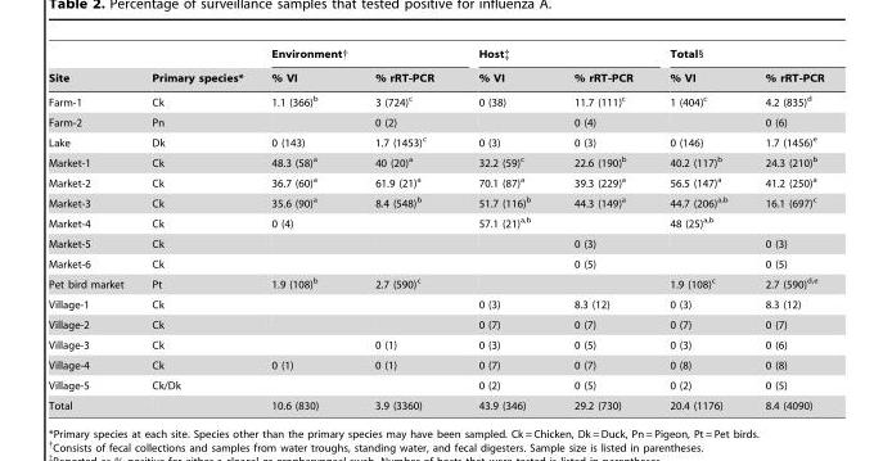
<table><thead><tr><td rowspan="2">Site</td><td rowspan="2">Primary species*</td><td colspan="2">Environment†</td><td colspan="2">Host‡</td><td colspan="2">Total§</td></tr><tr><td>% VI</td><td>% rRT-PCR</td><td>% VI</td><td>% rRT-PCR</td><td>% VI</td><td>% rRT-PCR</td></tr></thead><tbody><tr><td>Farm-1</td><td>Ck</td><td>1.1 (366)<sup>b</sup></td><td>3 (724)<sup>c</sup></td><td>0 (38)</td><td>11.7 (111)<sup>c</sup></td><td>1 (404)<sup>c</sup></td><td>4.2 (835)<sup>d</sup></td></tr><tr><td>Farm-2</td><td>Pn</td><td></td><td>0 (2)</td><td></td><td>0 (4)</td><td></td><td>0 (6)</td></tr><tr><td>Lake</td><td>Dk</td><td>0 (143)</td><td>1.7 (1453)<sup>c</sup></td><td>0 (3)</td><td>0 (3)</td><td>0 (146)</td><td>1.7 (1456)<sup>e</sup></td></tr><tr><td>Market-1</td><td>Ck</td><td>48.3 (58)<sup>a</sup></td><td>40 (20)<sup>a</sup></td><td>32.2 (59)<sup>c</sup></td><td>22.6 (190)<sup>b</sup></td><td>40.2 (117)<sup>b</sup></td><td>24.3 (210)<sup>b</sup></td></tr><tr><td>Market-2</td><td>Ck</td><td>36.7 (60)<sup>a</sup></td><td>61.9 (21)<sup>a</sup></td><td>70.1 (87)<sup>a</sup></td><td>39.3 (229)<sup>a</sup></td><td>56.5 (147)<sup>a</sup></td><td>41.2 (250)<sup>a</sup></td></tr><tr><td>Market-3</td><td>Ck</td><td>35.6 (90)<sup>a</sup></td><td>8.4 (548)<sup>b</sup></td><td>51.7 (116)<sup>b</sup></td><td>44.3 (149)<sup>a</sup></td><td>44.7 (206)a,b</td><td>16.1 (697)<sup>c</sup></td></tr><tr><td>Market-4</td><td>Ck</td><td>0 (4)</td><td></td><td>57.1 (21)a,b</td><td></td><td>48 (25)a,b</td><td></td></tr><tr><td>Market-5</td><td>Ck</td><td></td><td></td><td></td><td>0 (3)</td><td></td><td>0 (3)</td></tr><tr><td>Market-6</td><td>Ck</td><td></td><td></td><td></td><td>0 (5)</td><td></td><td>0 (5)</td></tr><tr><td>Pet bird market</td><td>Pt</td><td>1.9 (108)<sup>b</sup></td><td>2.7 (590)<sup>c</sup></td><td></td><td></td><td>1.9 (108)<sup>c</sup></td><td>2.7 (590)d,e</td></tr><tr><td>Village-1</td><td>Ck</td><td></td><td></td><td>0 (3)</td><td>8.3 (12)</td><td>0 (3)</td><td>8.3 (12)</td></tr><tr><td>Village-2</td><td>Ck</td><td></td><td></td><td>0 (7)</td><td>0 (7)</td><td>0 (7)</td><td>0 (7)</td></tr><tr><td>Village-3</td><td>Ck</td><td></td><td>0 (1)</td><td>0 (3)</td><td>0 (5)</td><td>0 (3)</td><td>0 (6)</td></tr><tr><td>Village-4</td><td>Ck</td><td>0 (1)</td><td>0 (1)</td><td>0 (7)</td><td>0 (7)</td><td>0 (8)</td><td>0 (8)</td></tr><tr><td>Village-5</td><td>Ck/Dk</td><td></td><td></td><td>0 (2)</td><td>0 (5)</td><td>0 (2)</td><td>0 (5)</td></tr><tr><td>Total</td><td></td><td>10.6 (830)</td><td>3.9 (3360)</td><td>43.9 (346)</td><td>29.2 (730)</td><td>20.4 (1176)</td><td>8.4 (4090)</td></tr></tbody></table>